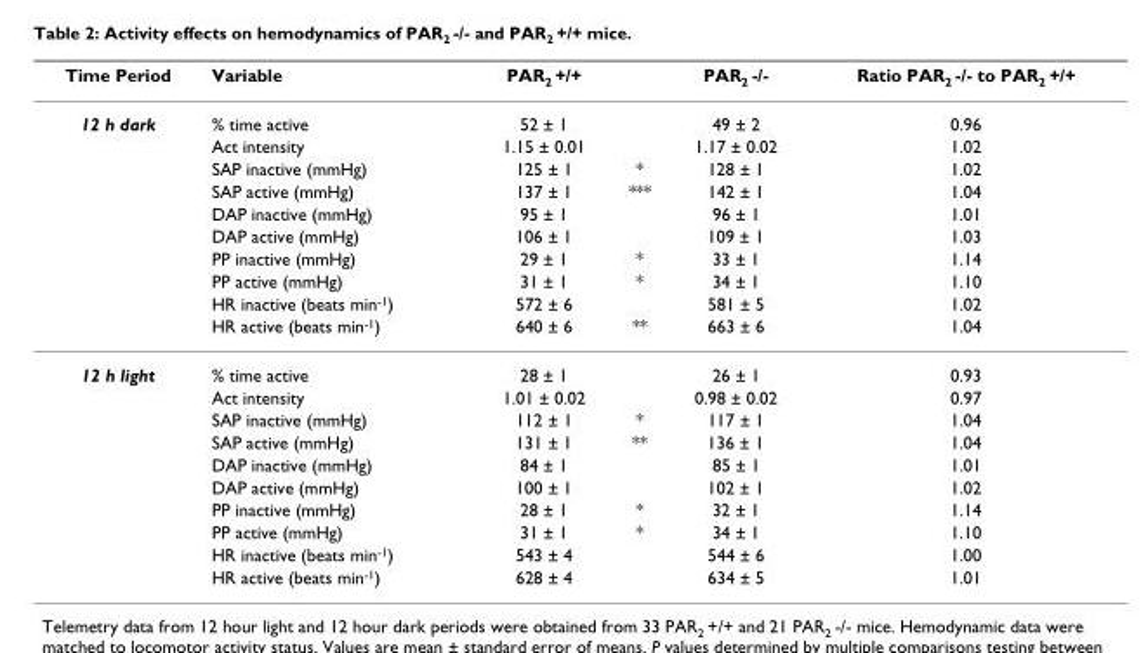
<table><thead><tr><td>Time Period</td><td>Variable</td><td>PAR<sub>2</sub> +/+</td><td></td><td>PAR<sub>2</sub> -/-</td><td>Ratio PAR<sub>2</sub> -/- to PAR<sub>2</sub> +/+</td></tr></thead><tbody><tr><td rowspan="10">12 h dark</td><td>% time active</td><td>52 ± 1</td><td></td><td>49 ± 2</td><td>0.96</td></tr><tr><td>Act intensity</td><td>1.15 ± 0.01</td><td></td><td>1.17 ± 0.02</td><td>1.02</td></tr><tr><td>SAP inactive (mmHg)</td><td>125 ± 1</td><td>*</td><td>128 ± 1</td><td>1.02</td></tr><tr><td>SAP active (mmHg)</td><td>137 ± 1</td><td>***</td><td>142 ± 1</td><td>1.04</td></tr><tr><td>DAP inactive (mmHg)</td><td>95 ± 1</td><td></td><td>96 ± 1</td><td>1.01</td></tr><tr><td>DAP active (mmHg)</td><td>106 ± 1</td><td></td><td>109 ± 1</td><td>1.03</td></tr><tr><td>PP inactive (mmHg)</td><td>29 ± 1</td><td>*</td><td>33 ± 1</td><td>1.14</td></tr><tr><td>PP active (mmHg)</td><td>31 ± 1</td><td>*</td><td>34 ± 1</td><td>1.10</td></tr><tr><td>HR inactive (beats min<sup>-1</sup>)</td><td>572 ± 6</td><td></td><td>581 ± 5</td><td>1.02</td></tr><tr><td>HR active (beats min<sup>-1</sup>)</td><td>640 ± 6</td><td>**</td><td>663 ± 6</td><td>1.04</td></tr><tr><td rowspan="10">12 h light</td><td>% time active</td><td>28 ± 1</td><td></td><td>26 ± 1</td><td>0.93</td></tr><tr><td>Act intensity</td><td>1.01 ± 0.02</td><td></td><td>0.98 ± 0.02</td><td>0.97</td></tr><tr><td>SAP inactive (mmHg)</td><td>112 ± 1</td><td>*</td><td>117 ± 1</td><td>1.04</td></tr><tr><td>SAP active (mmHg)</td><td>131 ± 1</td><td>**</td><td>136 ± 1</td><td>1.04</td></tr><tr><td>DAP inactive (mmHg)</td><td>84 ± 1</td><td></td><td>85 ± 1</td><td>1.01</td></tr><tr><td>DAP active (mmHg)</td><td>100 ± 1</td><td></td><td>102 ± 1</td><td>1.02</td></tr><tr><td>PP inactive (mmHg)</td><td>28 ± 1</td><td>*</td><td>32 ± 1</td><td>1.14</td></tr><tr><td>PP active (mmHg)</td><td>31 ± 1</td><td>*</td><td>34 ± 1</td><td>1.10</td></tr><tr><td>HR inactive (beats min<sup>-1</sup>)</td><td>543 ± 4</td><td></td><td>544 ± 6</td><td>1.00</td></tr><tr><td>HR active (beats min<sup>-1</sup>)</td><td>628 ± 4</td><td></td><td>634 ± 5</td><td>1.01</td></tr></tbody></table>